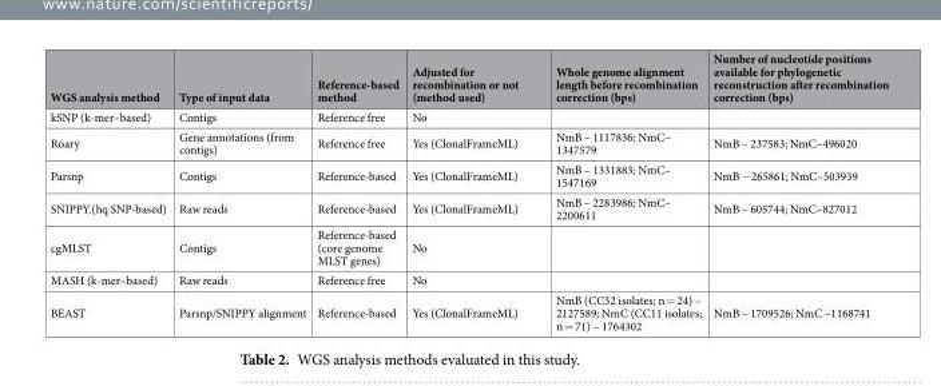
<table><thead><tr><td>WGS analysis method</td><td>Type of input data</td><td>Reference-based method</td><td>Adjusted for recombination or not (method used)</td><td>Whole genome alignment length before recombination correction (bps)</td><td>Number of nucleotide positions available for phylogenetic reconstruction after recombination correction (bps)</td></tr></thead><tbody><tr><td>kSNP (k-mer–based)</td><td>Contigs</td><td>Reference free</td><td>No</td><td></td><td></td></tr><tr><td>Roary</td><td>Gene annotations (from contigs)</td><td>Reference free</td><td>Yes (ClonalFrameML)</td><td>NmB – 1117836; NmC– 1347579</td><td>NmB – 237583; NmC–496020</td></tr><tr><td>Parsnp</td><td>Contigs</td><td>Reference-based</td><td>Yes (ClonalFrameML)</td><td>NmB – 1331883; NmC– 1547169</td><td>NmB −265861; NmC–503939</td></tr><tr><td>SNIPPY.(hq SNP-based)</td><td>Raw reads</td><td>Reference-based</td><td>Yes (ClonalFrameML)</td><td>NmB – 2283986; NmC– 2200611</td><td>NmB – 605744; NmC–827012</td></tr><tr><td>cgMLST</td><td>Contigs</td><td>Reference-based (core genome MLST genes)</td><td>No</td><td></td><td></td></tr><tr><td>MASH (k-mer–based)</td><td>Raw reads</td><td>Reference free</td><td>No</td><td></td><td></td></tr><tr><td>BEAST</td><td>Parsnp/SNIPPY alignment</td><td>Reference-based</td><td>Yes (ClonalFrameML)</td><td>NmB (CC32 isolates; n = 24) – 2127589; NmC (CC11 isolates; n = 71) – 1764302</td><td>NmB – 1709526; NmC –1168741</td></tr></tbody></table>